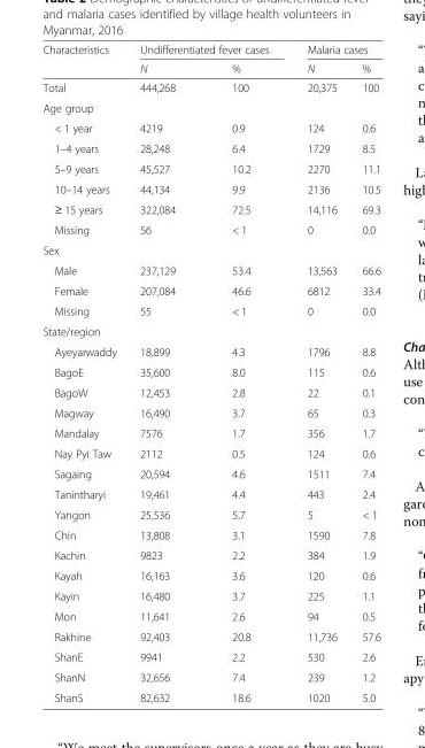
<table><thead><tr><td rowspan="2">Characteristics</td><td colspan="2">Undifferentiated fever cases</td><td colspan="2">Malaria cases</td></tr><tr><td>N</td><td>%</td><td>N</td><td>%</td></tr></thead><tbody><tr><td>Total</td><td>444,268</td><td>100</td><td>20,375</td><td>100</td></tr><tr><td colspan="5">Age group</td></tr><tr><td>&lt; 1 year</td><td>4219</td><td>0.9</td><td>124</td><td>0.6</td></tr><tr><td>1–4 years</td><td>28,248</td><td>6.4</td><td>1729</td><td>8.5</td></tr><tr><td>5–9 years</td><td>45,527</td><td>10.2</td><td>2270</td><td>11.1</td></tr><tr><td>10–14 years</td><td>44,134</td><td>9.9</td><td>2136</td><td>10.5</td></tr><tr><td>≥ 15 years</td><td>322,084</td><td>72.5</td><td>14,116</td><td>69.3</td></tr><tr><td>Missing</td><td>56</td><td>&lt; 1</td><td>0</td><td>0.0</td></tr><tr><td colspan="5">Sex</td></tr><tr><td>Male</td><td>237,129</td><td>53.4</td><td>13,563</td><td>66.6</td></tr><tr><td>Female</td><td>207,084</td><td>46.6</td><td>6812</td><td>33.4</td></tr><tr><td>Missing</td><td>55</td><td>&lt; 1</td><td>0</td><td>0.0</td></tr><tr><td colspan="5">State/region</td></tr><tr><td>Ayeyarwaddy</td><td>18,899</td><td>4.3</td><td>1796</td><td>8.8</td></tr><tr><td>BagoE</td><td>35,600</td><td>8.0</td><td>115</td><td>0.6</td></tr><tr><td>BagoW</td><td>12,453</td><td>2.8</td><td>22</td><td>0.1</td></tr><tr><td>Magway</td><td>16,490</td><td>3.7</td><td>65</td><td>0.3</td></tr><tr><td>Mandalay</td><td>7576</td><td>1.7</td><td>356</td><td>1.7</td></tr><tr><td>Nay Pyi Taw</td><td>2112</td><td>0.5</td><td>124</td><td>0.6</td></tr><tr><td>Sagaing</td><td>20,594</td><td>4.6</td><td>1511</td><td>7.4</td></tr><tr><td>Tanintharyi</td><td>19,461</td><td>4.4</td><td>443</td><td>2.4</td></tr><tr><td>Yangon</td><td>25,536</td><td>5.7</td><td>5</td><td>&lt; 1</td></tr><tr><td>Chin</td><td>13,808</td><td>3.1</td><td>1590</td><td>7.8</td></tr><tr><td>Kachin</td><td>9823</td><td>2.2</td><td>384</td><td>1.9</td></tr><tr><td>Kayah</td><td>16,163</td><td>3.6</td><td>120</td><td>0.6</td></tr><tr><td>Kayin</td><td>16,480</td><td>3.7</td><td>225</td><td>1.1</td></tr><tr><td>Mon</td><td>11,641</td><td>2.6</td><td>94</td><td>0.5</td></tr><tr><td>Rakhine</td><td>92,403</td><td>20.8</td><td>11,736</td><td>57.6</td></tr><tr><td>ShanE</td><td>9941</td><td>2.2</td><td>530</td><td>2.6</td></tr><tr><td>ShanN</td><td>32,656</td><td>7.4</td><td>239</td><td>1.2</td></tr><tr><td>ShanS</td><td>82,632</td><td>18.6</td><td>1020</td><td>5.0</td></tr></tbody></table>